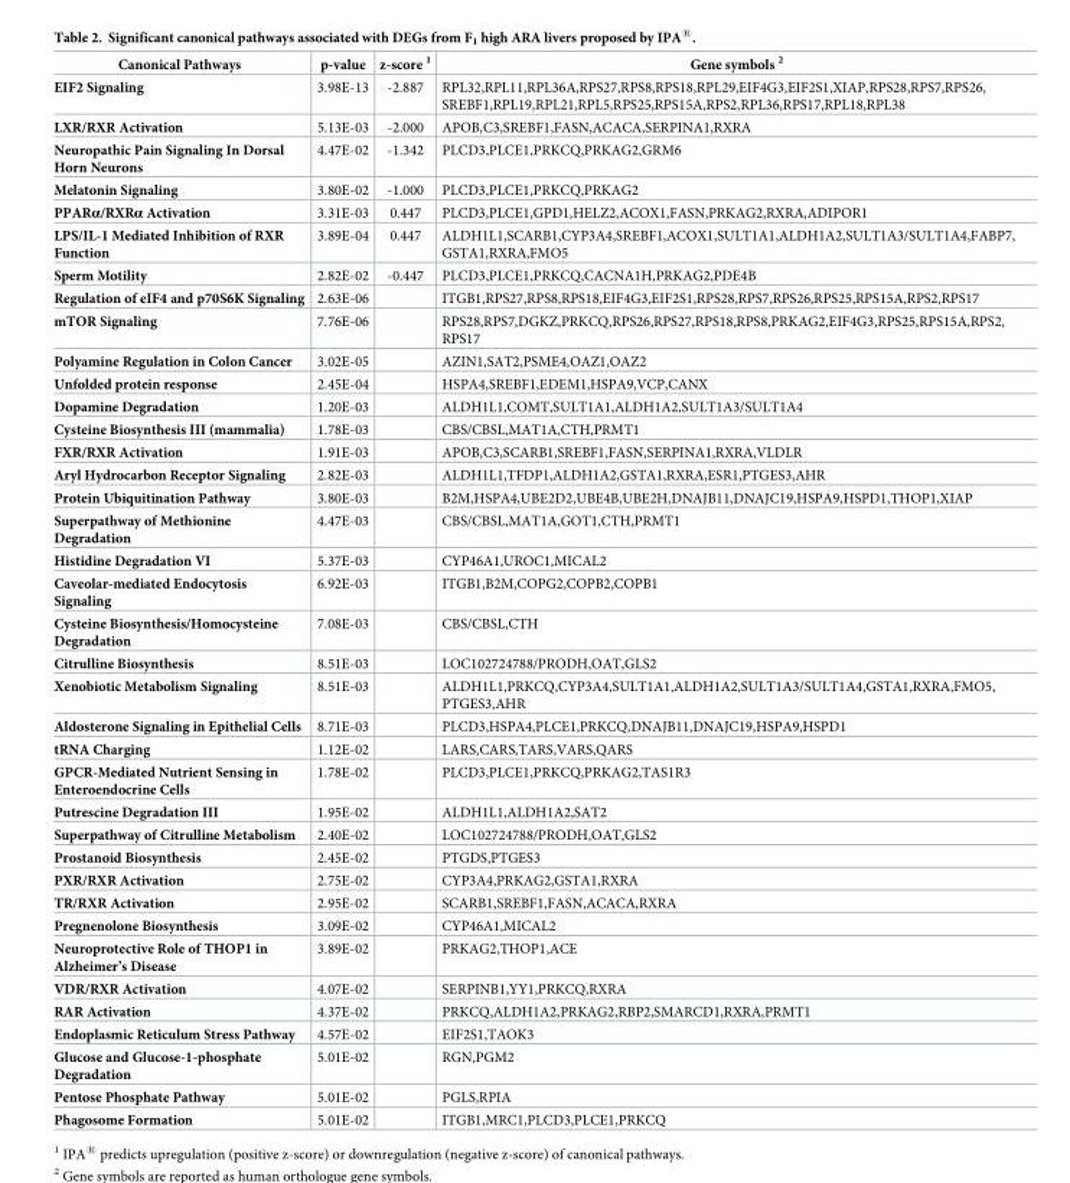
<table><thead><tr><td>Canonical Pathways</td><td>p-value</td><td>z-score <sup>1</sup></td><td>Gene symbols <sup>2</sup></td></tr></thead><tbody><tr><td>EIF2 Signaling</td><td>3.98E-13</td><td>-2.887</td><td>RPL32,RPL11,RPL36A,RPS27,RPS8,RPS18,RPL29,EIF4G3,EIF2S1,XIAP,RPS28,RPS7,RPS26, SREBF1,RPL19,RPL21,RPL5,RPS25,RPS15A,RPS2,RPL36,RPS17,RPL18,RPL38</td></tr><tr><td>LXR/RXR Activation</td><td>5.13E-03</td><td>-2.000</td><td>APOB,C3,SREBF1,FASN,ACACA,SERPINA1,RXRA</td></tr><tr><td>Neuropathic Pain Signaling In Dorsal Horn Neurons</td><td>4.47E-02</td><td>-1.342</td><td>PLCD3,PLCE1,PRKCQ,PRKAG2,GRM6</td></tr><tr><td>Melatonin Signaling</td><td>3.80E-02</td><td>-1.000</td><td>PLCD3,PLCE1,PRKCQ,PRKAG2</td></tr><tr><td>PPARα/RXRα Activation</td><td>3.31E-03</td><td>0.447</td><td>PLCD3,PLCE1,GPD1,HELZ2,ACOX1,FASN,PRKAG2,RXRA,ADIPOR1</td></tr><tr><td>LPS/IL-1 Mediated Inhibition of RXR Function</td><td>3.89E-04</td><td>0.447</td><td>ALDH1L1,SCARB1,CYP3A4,SREBF1,ACOX1,SULT1A1,ALDH1A2,SULT1A3/SULT1A4,FABP7, GSTA1,RXRA,FMO5</td></tr><tr><td>Sperm Motility</td><td>2.82E-02</td><td>-0.447</td><td>PLCD3,PLCE1,PRKCQ,CACNA1H,PRKAG2,PDE4B</td></tr><tr><td>Regulation of eIF4 and p70S6K Signaling</td><td>2.63E-06</td><td></td><td>ITGB1,RPS27,RPS8,RPS18,EIF4G3,EIF2S1,RPS28,RPS7,RPS26,RPS25,RPS15A,RPS2,RPS17</td></tr><tr><td>mTOR Signaling</td><td>7.76E-06</td><td></td><td>RPS28,RPS7,DGKZ,PRKCQ,RPS26,RPS27,RPS18,RPS8,PRKAG2,EIF4G3,RPS25,RPS15A,RPS2, RPS17</td></tr><tr><td>Polyamine Regulation in Colon Cancer</td><td>3.02E-05</td><td></td><td>AZIN1,SAT2,PSME4,OAZ1,OAZ2</td></tr><tr><td>Unfolded protein response</td><td>2.45E-04</td><td></td><td>HSPA4,SREBF1,EDEM1,HSPA9,VCP,CANX</td></tr><tr><td>Dopamine Degradation</td><td>1.20E-03</td><td></td><td>ALDH1L1,COMT,SULT1A1,ALDH1A2,SULT1A3/SULT1A4</td></tr><tr><td>Cysteine Biosynthesis III (mammalia)</td><td>1.78E-03</td><td></td><td>CBS/CBSL,MAT1A,CTH,PRMT1</td></tr><tr><td>FXR/RXR Activation</td><td>1.91E-03</td><td></td><td>APOB,C3,SCARB1,SREBF1,FASN,SERPINA1,RXRA,VLDLR</td></tr><tr><td>Aryl Hydrocarbon Receptor Signaling</td><td>2.82E-03</td><td></td><td>ALDH1L1,TFDP1,ALDH1A2,GSTA1,RXRA,ESR1,PTGES3,AHR</td></tr><tr><td>Protein Ubiquitination Pathway</td><td>3.80E-03</td><td></td><td>B2M,HSPA4,UBE2D2,UBE4B,UBE2H,DNAJB11,DNAJC19,HSPA9,HSPD1,THOP1,XIAP</td></tr><tr><td>Superpathway of Methionine Degradation</td><td>4.47E-03</td><td></td><td>CBS/CBSL,MAT1A,GOT1,CTH,PRMT1</td></tr><tr><td>Histidine Degradation VI</td><td>5.37E-03</td><td></td><td>CYP46A1,UROC1,MICAL2</td></tr><tr><td>Caveolar-mediated Endocytosis Signaling</td><td>6.92E-03</td><td></td><td>ITGB1,B2M,COPG2,COPB2,COPB1</td></tr><tr><td>Cysteine Biosynthesis/Homocysteine Degradation</td><td>7.08E-03</td><td></td><td>CBS/CBSL,CTH</td></tr><tr><td>Citrulline Biosynthesis</td><td>8.51E-03</td><td></td><td>LOC102724788/PRODH,OAT,GLS2</td></tr><tr><td>Xenobiotic Metabolism Signaling</td><td>8.51E-03</td><td></td><td>ALDH1L1,PRKCQ,CYP3A4,SULT1A1,ALDH1A2,SULT1A3/SULT1A4,GSTA1,RXRA,FMO5, PTGES3,AHR</td></tr><tr><td>Aldosterone Signaling in Epithelial Cells</td><td>8.71E-03</td><td></td><td>PLCD3,HSPA4,PLCE1,PRKCQ,DNAJB11,DNAJC19,HSPA9,HSPD1</td></tr><tr><td>tRNA Charging</td><td>1.12E-02</td><td></td><td>LARS,CARS,TARS,VARS,QARS</td></tr><tr><td>GPCR-Mediated Nutrient Sensing in Enteroendocrine Cells</td><td>1.78E-02</td><td></td><td>PLCD3,PLCE1,PRKCQ,PRKAG2,TAS1R3</td></tr><tr><td>Putrescine Degradation III</td><td>1.95E-02</td><td></td><td>ALDH1L1,ALDH1A2,SAT2</td></tr><tr><td>Superpathway of Citrulline Metabolism</td><td>2.40E-02</td><td></td><td>LOC102724788/PRODH,OAT,GLS2</td></tr><tr><td>Prostanoid Biosynthesis</td><td>2.45E-02</td><td></td><td>PTGDS,PTGES3</td></tr><tr><td>PXR/RXR Activation</td><td>2.75E-02</td><td></td><td>CYP3A4,PRKAG2,GSTA1,RXRA</td></tr><tr><td>TR/RXR Activation</td><td>2.95E-02</td><td></td><td>SCARB1,SREBF1,FASN,ACACA,RXRA</td></tr><tr><td>Pregnenolone Biosynthesis</td><td>3.09E-02</td><td></td><td>CYP46A1,MICAL2</td></tr><tr><td>Neuroprotective Role of THOP1 in Alzheimer’s Disease</td><td>3.89E-02</td><td></td><td>PRKAG2,THOP1,ACE</td></tr><tr><td>VDR/RXR Activation</td><td>4.07E-02</td><td></td><td>SERPINB1,YY1,PRKCQ,RXRA</td></tr><tr><td>RAR Activation</td><td>4.37E-02</td><td></td><td>PRKCQ,ALDH1A2,PRKAG2,RBP2,SMARCD1,RXRA,PRMT1</td></tr><tr><td>Endoplasmic Reticulum Stress Pathway</td><td>4.57E-02</td><td></td><td>EIF2S1,TAOK3</td></tr><tr><td>Glucose and Glucose-1-phosphate Degradation</td><td>5.01E-02</td><td></td><td>RGN,PGM2</td></tr><tr><td>Pentose Phosphate Pathway</td><td>5.01E-02</td><td></td><td>PGLS,RPIA</td></tr><tr><td>Phagosome Formation</td><td>5.01E-02</td><td></td><td>ITGB1,MRC1,PLCD3,PLCE1,PRKCQ</td></tr></tbody></table>